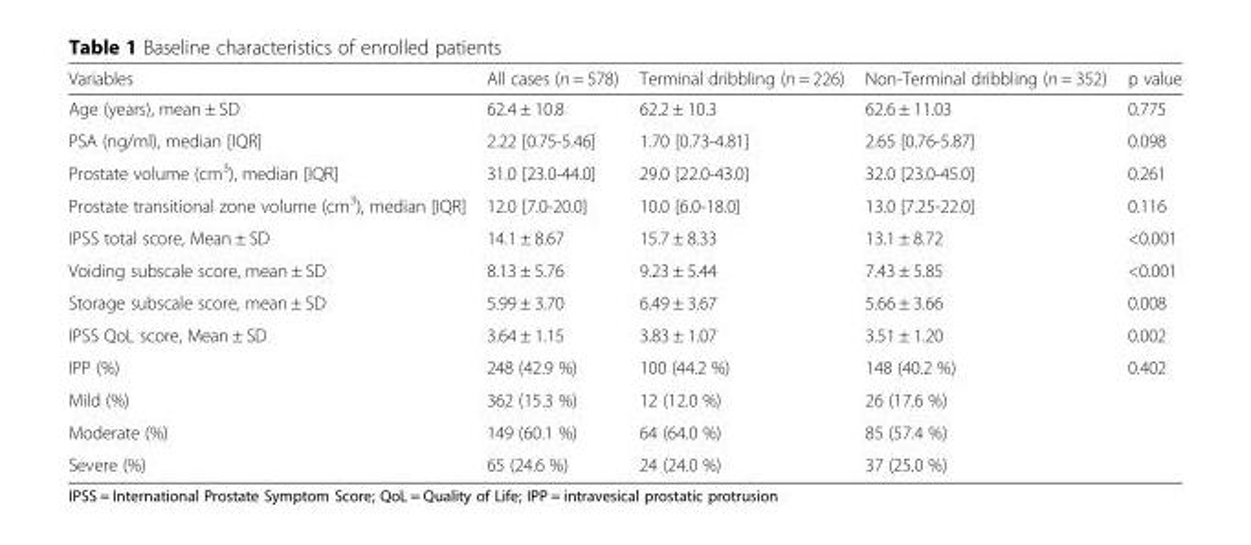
<table><thead><tr><td>Variables</td><td>All cases (n = 578)</td><td>Terminal dribbling (n = 226)</td><td>Non-Terminal dribbling (n = 352)</td><td>p value</td></tr></thead><tbody><tr><td>Age (years), mean ± SD</td><td>62.4 ± 10.8</td><td>62.2 ± 10.3</td><td>62.6 ± 11.03</td><td>0.775</td></tr><tr><td>PSA (ng/ml), median [IQR]</td><td>2.22 [0.75-5.46]</td><td>1.70 [0.73-4.81]</td><td>2.65 [0.76-5.87]</td><td>0.098</td></tr><tr><td>Prostate volume (cm<sup>3</sup>), median [IQR]</td><td>31.0 [23.0-44.0]</td><td>29.0 [22.0-43.0]</td><td>32.0 [23.0-45.0]</td><td>0.261</td></tr><tr><td>Prostate transitional zone volume (cm<sup>3</sup>), median [IQR]</td><td>12.0 [7.0-20.0]</td><td>10.0 [6.0-18.0]</td><td>13.0 [7.25-22.0]</td><td>0.116</td></tr><tr><td>IPSS total score, Mean ± SD</td><td>14.1 ± 8.67</td><td>15.7 ± 8.33</td><td>13.1 ± 8.72</td><td>&lt;0.001</td></tr><tr><td>Voiding subscale score, mean ± SD</td><td>8.13 ± 5.76</td><td>9.23 ± 5.44</td><td>7.43 ± 5.85</td><td>&lt;0.001</td></tr><tr><td>Storage subscale score, mean ± SD</td><td>5.99 ± 3.70</td><td>6.49 ± 3.67</td><td>5.66 ± 3.66</td><td>0.008</td></tr><tr><td>IPSS QoL score, Mean ± SD</td><td>3.64 ± 1.15</td><td>3.83 ± 1.07</td><td>3.51 ± 1.20</td><td>0.002</td></tr><tr><td>IPP (%)</td><td>248 (42.9 %)</td><td>100 (44.2 %)</td><td>148 (40.2 %)</td><td>0.402</td></tr><tr><td>Mild (%)</td><td>362 (15.3 %)</td><td>12 (12.0 %)</td><td>26 (17.6 %)</td><td></td></tr><tr><td>Moderate (%)</td><td>149 (60.1 %)</td><td>64 (64.0 %)</td><td>85 (57.4 %)</td><td></td></tr><tr><td>Severe (%)</td><td>65 (24.6 %)</td><td>24 (24.0 %)</td><td>37 (25.0 %)</td><td></td></tr></tbody></table>